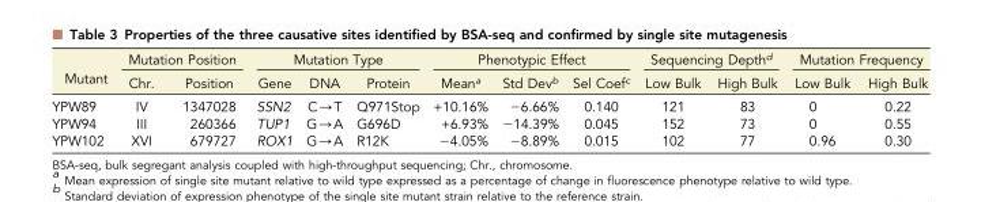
<table><thead><tr><td rowspan="2">Mutant</td><td colspan="2">Mutation Position</td><td colspan="3">Mutation Type</td><td colspan="3">Phenotypic Effect</td><td colspan="2">Sequencing Depth<sup>d</sup></td><td colspan="2">Mutation Frequency</td></tr><tr><td>Chr.</td><td>Position</td><td>Gene</td><td>DNA</td><td>Protein</td><td>Mean<sup>a</sup></td><td>Std Dev<sup>b</sup></td><td>Sel Coef<sup>c</sup></td><td>Low Bulk</td><td>High Bulk</td><td>Low Bulk</td><td>High Bulk</td></tr></thead><tbody><tr><td>YPW89</td><td>IV</td><td>1347028</td><td>SSN2</td><td>C→T</td><td>Q971Stop</td><td>+10.16%</td><td>−6.66%</td><td>0.140</td><td>121</td><td>83</td><td>0</td><td>0.22</td></tr><tr><td>YPW94</td><td>III</td><td>260366</td><td>TUP1</td><td>G→A</td><td>G696D</td><td>+6.93%</td><td>−14.39%</td><td>0.045</td><td>152</td><td>73</td><td>0</td><td>0.55</td></tr><tr><td>YPW102</td><td>XVI</td><td>679727</td><td>ROX1</td><td>G→A</td><td>R12K</td><td>−4.05%</td><td>−8.89%</td><td>0.015</td><td>102</td><td>77</td><td>0.96</td><td>0.30</td></tr></tbody></table>